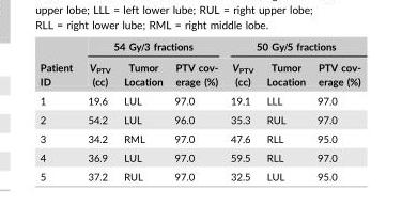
<table><thead><tr><td rowspan="2">Patient ID</td><td colspan="3">54 Gy/3 fractions</td><td colspan="3">50 Gy/5 fractions</td></tr><tr><td>V<sub>PTV</sub> (cc)</td><td>Tumor Location</td><td>PTV cov- erage (%)</td><td>V<sub>PTV</sub> (cc)</td><td>Tumor Location</td><td>PTV cov- erage (%)</td></tr></thead><tbody><tr><td>1</td><td>19.6</td><td>LUL</td><td>97.0</td><td>19.1</td><td>LLL</td><td>97.0</td></tr><tr><td>2</td><td>54.2</td><td>LUL</td><td>96.0</td><td>35.3</td><td>RUL</td><td>97.0</td></tr><tr><td>3</td><td>34.2</td><td>RML</td><td>97.0</td><td>47.6</td><td>RLL</td><td>95.0</td></tr><tr><td>4</td><td>36.9</td><td>LUL</td><td>97.0</td><td>59.5</td><td>RLL</td><td>97.0</td></tr><tr><td>5</td><td>37.2</td><td>RUL</td><td>97.0</td><td>32.5</td><td>LUL</td><td>95.0</td></tr></tbody></table>